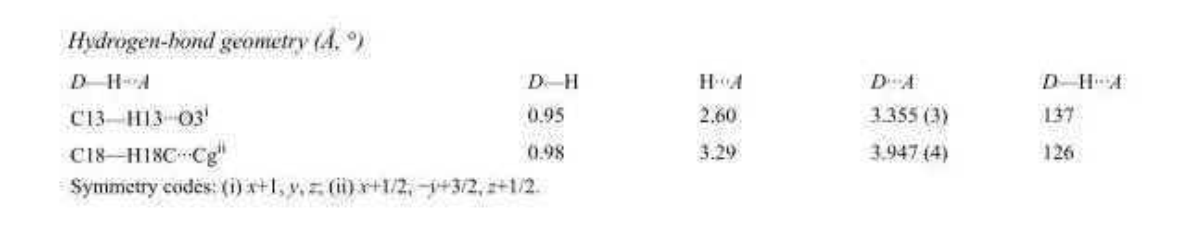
<table><tbody><tr><td>D—H···A</td><td>D—H</td><td>H···A</td><td>D···A</td><td>D—H···A</td></tr><tr><td>C13—H13···O3<sup>i</sup></td><td>0.95</td><td>2.60</td><td>3.355 (3)</td><td>137</td></tr><tr><td>C18—H18C···Cg<sup>ii</sup></td><td>0.98</td><td>3.29</td><td>3.947 (4)</td><td>126</td></tr></tbody></table>